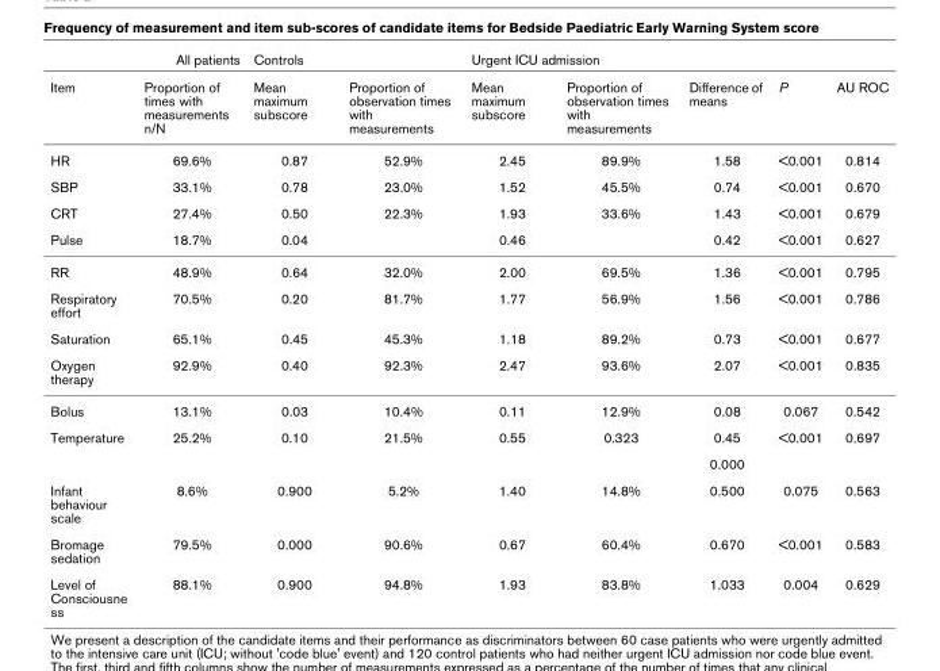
<table><thead><tr><td colspan="2">All patients</td><td colspan="2">Controls</td><td colspan="2">Urgent ICU admission</td><td rowspan="2">Difference of means</td><td rowspan="2">P</td><td rowspan="2">AU ROC</td></tr><tr><td>Item</td><td>Proportion of times with measurements n/N</td><td>Mean maximum subscore</td><td>Proportion of observation times with measurements</td><td>Mean maximum subscore</td><td>Proportion of observation times with measurements</td></tr></thead><tbody><tr><td>HR</td><td>69.6%</td><td>0.87</td><td>52.9%</td><td>2.45</td><td>89.9%</td><td>1.58</td><td>&lt;0.001</td><td>0.814</td></tr><tr><td>SBP</td><td>33.1%</td><td>0.78</td><td>23.0%</td><td>1.52</td><td>45.5%</td><td>0.74</td><td>&lt;0.001</td><td>0.670</td></tr><tr><td>CRT</td><td>27.4%</td><td>0.50</td><td>22.3%</td><td>1.93</td><td>33.6%</td><td>1.43</td><td>&lt;0.001</td><td>0.679</td></tr><tr><td>Pulse</td><td>18.7%</td><td>0.04</td><td></td><td>0.46</td><td></td><td>0.42</td><td>&lt;0.001</td><td>0.627</td></tr><tr><td>RR</td><td>48.9%</td><td>0.64</td><td>32.0%</td><td>2.00</td><td>69.5%</td><td>1.36</td><td>&lt;0.001</td><td>0.795</td></tr><tr><td>Respiratory effort</td><td>70.5%</td><td>0.20</td><td>81.7%</td><td>1.77</td><td>56.9%</td><td>1.56</td><td>&lt;0.001</td><td>0.786</td></tr><tr><td>Saturation</td><td>65.1%</td><td>0.45</td><td>45.3%</td><td>1.18</td><td>89.2%</td><td>0.73</td><td>&lt;0.001</td><td>0.677</td></tr><tr><td>Oxygen therapy</td><td>92.9%</td><td>0.40</td><td>92.3%</td><td>2.47</td><td>93.6%</td><td>2.07</td><td>&lt;0.001</td><td>0.835</td></tr><tr><td>Bolus</td><td>13.1%</td><td>0.03</td><td>10.4%</td><td>0.11</td><td>12.9%</td><td>0.08</td><td>0.067</td><td>0.542</td></tr><tr><td rowspan="2">Temperature</td><td>25.2%</td><td>0.10</td><td>21.5%</td><td>0.55</td><td>0.323</td><td>0.45</td><td>&lt;0.001</td><td>0.697</td></tr><tr><td></td><td></td><td></td><td></td><td></td><td>0.000</td><td></td><td></td></tr><tr><td>Infant behaviour scale</td><td>8.6%</td><td>0.900</td><td>5.2%</td><td>1.40</td><td>14.8%</td><td>0.500</td><td>0.075</td><td>0.563</td></tr><tr><td>Bromage sedation</td><td>79.5%</td><td>0.000</td><td>90.6%</td><td>0.67</td><td>60.4%</td><td>0.670</td><td>&lt;0.001</td><td>0.583</td></tr><tr><td>Level of Consciousne ss</td><td>88.1%</td><td>0.900</td><td>94.8%</td><td>1.93</td><td>83.8%</td><td>1.033</td><td>0.004</td><td>0.629</td></tr></tbody></table>